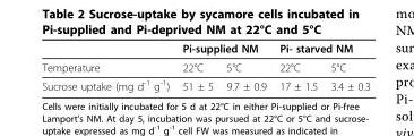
<table><thead><tr><td rowspan="2">Temperature</td><td colspan="2">Pi-supplied NM</td><td colspan="2">Pi- starved NM</td></tr><tr><td>22°C</td><td>5°C</td><td>22°C</td><td>5°C</td></tr></thead><tbody><tr><td>Sucrose uptake (mg d<sup>-1</sup> g<sup>-1</sup>)</td><td>51 ± 5</td><td>9.7 ± 0.9</td><td>17 ± 1.5</td><td>3.4 ± 0.3</td></tr></tbody></table>